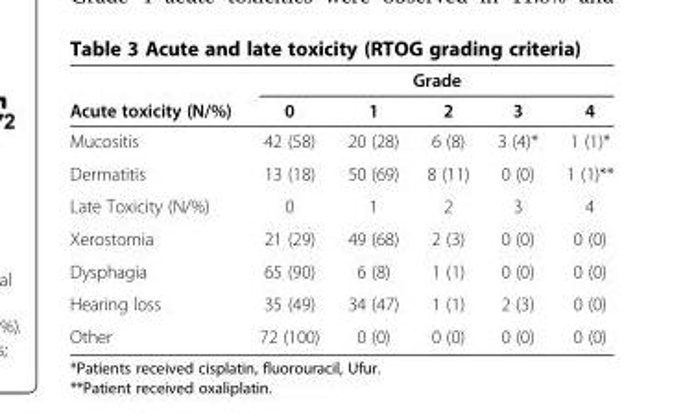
<table><thead><tr><td rowspan="2">Acute toxicity (N/%)</td><td colspan="5">Grade</td></tr><tr><td>0</td><td>1</td><td>2</td><td>3</td><td>4</td></tr></thead><tbody><tr><td>Mucositis</td><td>42 (58)</td><td>20 (28)</td><td>6 (8)</td><td>3 (4)*</td><td>1 (1)*</td></tr><tr><td>Dermatitis</td><td>13 (18)</td><td>50 (69)</td><td>8 (11)</td><td>0 (0)</td><td>1 (1)**</td></tr><tr><td>Late Toxicity (N/%)</td><td>0</td><td>1</td><td>2</td><td>3</td><td>4</td></tr><tr><td>Xerostomia</td><td>21 (29)</td><td>49 (68)</td><td>2 (3)</td><td>0 (0)</td><td>0 (0)</td></tr><tr><td>Dysphagia</td><td>65 (90)</td><td>6 (8)</td><td>1 (1)</td><td>0 (0)</td><td>0 (0)</td></tr><tr><td>Hearing loss</td><td>35 (49)</td><td>34 (47)</td><td>1 (1)</td><td>2 (3)</td><td>0 (0)</td></tr><tr><td>Other</td><td>72 (100)</td><td>0 (0)</td><td>0 (0)</td><td>0 (0)</td><td>0 (0)</td></tr></tbody></table>